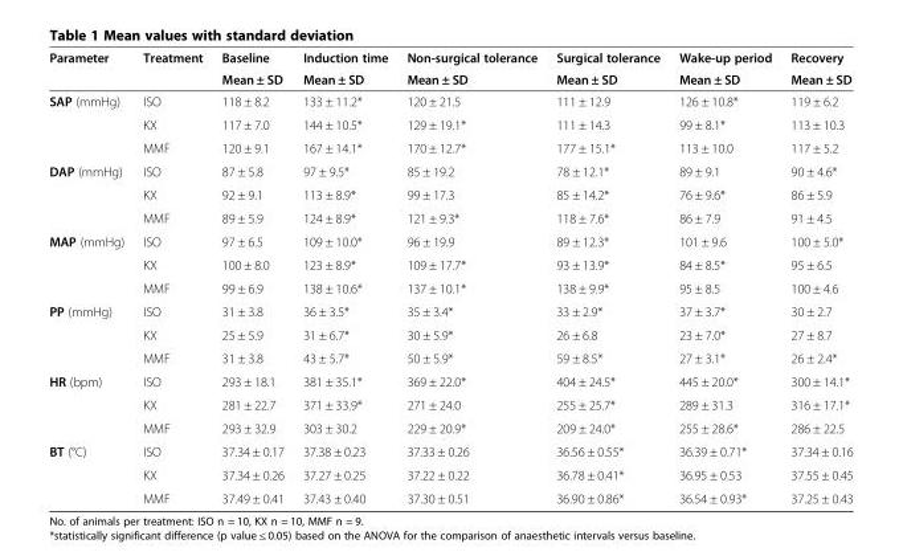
<table><thead><tr><td rowspan="2">Parameter</td><td rowspan="2">Treatment</td><td rowspan="2">Baseline Mean ± SD</td><td rowspan="2">Induction time Mean ± SD</td><td rowspan="2">Non-surgical tolerance Mean ± SD</td><td rowspan="2">Surgical tolerance Mean ± SD</td><td rowspan="2">Wake-up period Mean ± SD</td><td rowspan="2">Recovery Mean ± SD</td></tr><tr></tr></thead><tbody><tr><td rowspan="3">SAP (mmHg)</td><td>ISO</td><td>118 ± 8.2</td><td>133 ± 11.2*</td><td>120 ± 21.5</td><td>111 ± 12.9</td><td>126 ± 10.8*</td><td>119 ± 6.2</td></tr><tr><td>KX</td><td>117 ± 7.0</td><td>144 ± 10.5*</td><td>129 ± 19.1*</td><td>111 ± 14.3</td><td>99 ± 8.1*</td><td>113 ± 10.3</td></tr><tr><td>MMF</td><td>120 ± 9.1</td><td>167 ± 14.1*</td><td>170 ± 12.7*</td><td>177 ± 15.1*</td><td>113 ± 10.0</td><td>117 ± 5.2</td></tr><tr><td rowspan="3">DAP (mmHg)</td><td>ISO</td><td>87 ± 5.8</td><td>97 ± 9.5*</td><td>85 ± 19.2</td><td>78 ± 12.1*</td><td>89 ± 9.1</td><td>90 ± 4.6*</td></tr><tr><td>KX</td><td>92 ± 9.1</td><td>113 ± 8.9*</td><td>99 ± 17.3</td><td>85 ± 14.2*</td><td>76 ± 9.6*</td><td>86 ± 5.9</td></tr><tr><td>MMF</td><td>89 ± 5.9</td><td>124 ± 8.9*</td><td>121 ± 9.3*</td><td>118 ± 7.6*</td><td>86 ± 7.9</td><td>91 ± 4.5</td></tr><tr><td rowspan="3">MAP (mmHg)</td><td>ISO</td><td>97 ± 6.5</td><td>109 ± 10.0*</td><td>96 ± 19.9</td><td>89 ± 12.3*</td><td>101 ± 9.6</td><td>100 ± 5.0*</td></tr><tr><td>KX</td><td>100 ± 8.0</td><td>123 ± 8.9*</td><td>109 ± 17.7*</td><td>93 ± 13.9*</td><td>84 ± 8.5*</td><td>95 ± 6.5</td></tr><tr><td>MMF</td><td>99 ± 6.9</td><td>138 ± 10.6*</td><td>137 ± 10.1*</td><td>138 ± 9.9*</td><td>95 ± 8.5</td><td>100 ± 4.6</td></tr><tr><td rowspan="3">PP (mmHg)</td><td>ISO</td><td>31 ± 3.8</td><td>36 ± 3.5*</td><td>35 ± 3.4*</td><td>33 ± 2.9*</td><td>37 ± 3.7*</td><td>30 ± 2.7</td></tr><tr><td>KX</td><td>25 ± 5.9</td><td>31 ± 6.7*</td><td>30 ± 5.9*</td><td>26 ± 6.8</td><td>23 ± 7.0*</td><td>27 ± 8.7</td></tr><tr><td>MMF</td><td>31 ± 3.8</td><td>43 ± 5.7*</td><td>50 ± 5.9*</td><td>59 ± 8.5*</td><td>27 ± 3.1*</td><td>26 ± 2.4*</td></tr><tr><td rowspan="3">HR (bpm)</td><td>ISO</td><td>293 ± 18.1</td><td>381 ± 35.1*</td><td>369 ± 22.0*</td><td>404 ± 24.5*</td><td>445 ± 20.0*</td><td>300 ± 14.1*</td></tr><tr><td>KX</td><td>281 ± 22.7</td><td>371 ± 33.9*</td><td>271 ± 24.0</td><td>255 ± 25.7*</td><td>289 ± 31.3</td><td>316 ± 17.1*</td></tr><tr><td>MMF</td><td>293 ± 32.9</td><td>303 ± 30.2</td><td>229 ± 20.9*</td><td>209 ± 24.0*</td><td>255 ± 28.6*</td><td>286 ± 22.5</td></tr><tr><td rowspan="3">BT (°C)</td><td>ISO</td><td>37.34 ± 0.17</td><td>37.38 ± 0.23</td><td>37.33 ± 0.26</td><td>36.56 ± 0.55*</td><td>36.39 ± 0.71*</td><td>37.34 ± 0.16</td></tr><tr><td>KX</td><td>37.34 ± 0.26</td><td>37.27 ± 0.25</td><td>37.22 ± 0.22</td><td>36.78 ± 0.41*</td><td>36.95 ± 0.53</td><td>37.55 ± 0.45</td></tr><tr><td>MMF</td><td>37.49 ± 0.41</td><td>37.43 ± 0.40</td><td>37.30 ± 0.51</td><td>36.90 ± 0.86*</td><td>36.54 ± 0.93*</td><td>37.25 ± 0.43</td></tr></tbody></table>